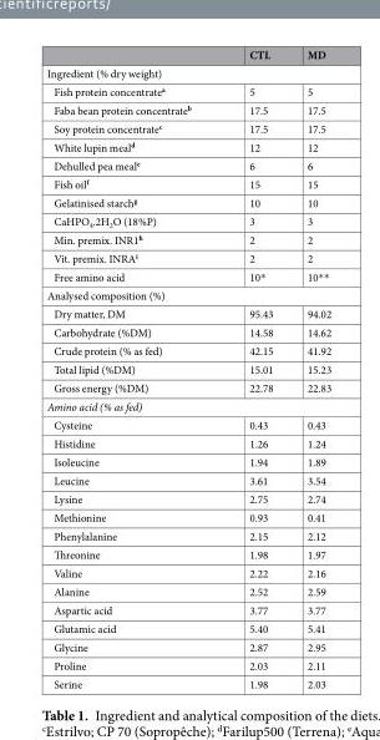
<table><thead><tr><td></td><td>CTL</td><td>MD</td></tr></thead><tbody><tr><td colspan="3">Ingredient (% dry weight)</td></tr><tr><td>Fish protein concentrate<sup>a</sup></td><td>5</td><td>5</td></tr><tr><td>Faba bean protein concentrate<sup>b</sup></td><td>17.5</td><td>17.5</td></tr><tr><td>Soy protein concentrate<sup>c</sup></td><td>17.5</td><td>17.5</td></tr><tr><td>White lupin meal<sup>d</sup></td><td>12</td><td>12</td></tr><tr><td>Dehulled pea meal<sup>e</sup></td><td>6</td><td>6</td></tr><tr><td>Fish oil<sup>f</sup></td><td>15</td><td>15</td></tr><tr><td>Gelatinised starch<sup>g</sup></td><td>10</td><td>10</td></tr><tr><td>CaHPO<sub>4</sub>.2H<sub>2</sub>O (18%P)</td><td>3</td><td>3</td></tr><tr><td>Min. premix. INR1<sup>h</sup></td><td>2</td><td>2</td></tr><tr><td>Vit. premix. INRA<sup>i</sup></td><td>2</td><td>2</td></tr><tr><td>Free amino acid</td><td>10*</td><td>10**</td></tr><tr><td colspan="3">Analysed composition (%)</td></tr><tr><td>Dry matter, DM</td><td>95.43</td><td>94.02</td></tr><tr><td>Carbohydrate (%DM)</td><td>14.58</td><td>14.62</td></tr><tr><td>Crude protein (% as fed)</td><td>42.15</td><td>41.92</td></tr><tr><td>Total lipid (%DM)</td><td>15.01</td><td>15.23</td></tr><tr><td>Gross energy (%DM)</td><td>22.78</td><td>22.83</td></tr><tr><td colspan="3">Amino acid (% as fed)</td></tr><tr><td>Cysteine</td><td>0.43</td><td>0.43</td></tr><tr><td>Histidine</td><td>1.26</td><td>1.24</td></tr><tr><td>Isoleucine</td><td>1.94</td><td>1.89</td></tr><tr><td>Leucine</td><td>3.61</td><td>3.54</td></tr><tr><td>Lysine</td><td>2.75</td><td>2.74</td></tr><tr><td>Methionine</td><td>0.93</td><td>0.41</td></tr><tr><td>Phenylalanine</td><td>2.15</td><td>2.12</td></tr><tr><td>Threonine</td><td>1.98</td><td>1.97</td></tr><tr><td>Valine</td><td>2.22</td><td>2.16</td></tr><tr><td>Alanine</td><td>2.52</td><td>2.59</td></tr><tr><td>Aspartic acid</td><td>3.77</td><td>3.77</td></tr><tr><td>Glutamic acid</td><td>5.40</td><td>5.41</td></tr><tr><td>Glycine</td><td>2.87</td><td>2.95</td></tr><tr><td>Proline</td><td>2.03</td><td>2.11</td></tr><tr><td>Serine</td><td>1.98</td><td>2.03</td></tr></tbody></table>